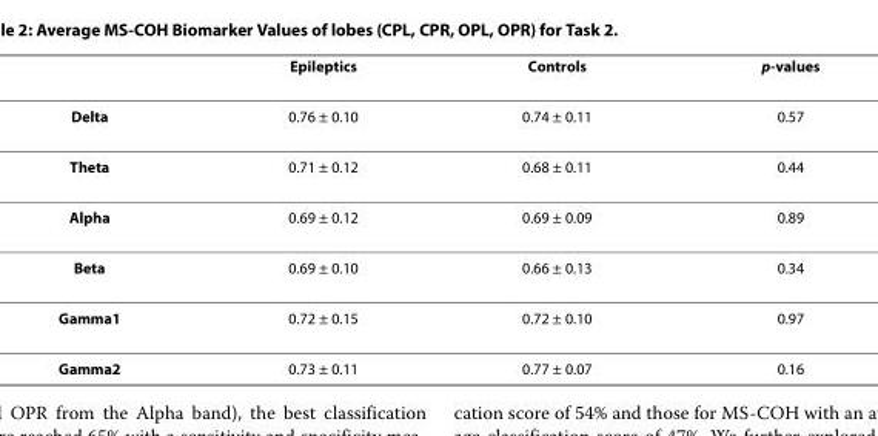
<table><thead><tr><td></td><td>Epileptics</td><td>Controls</td><td>p-values</td></tr></thead><tbody><tr><td>Delta</td><td>0.76 ± 0.10</td><td>0.74 ± 0.11</td><td>0.57</td></tr><tr><td>Theta</td><td>0.71 ± 0.12</td><td>0.68 ± 0.11</td><td>0.44</td></tr><tr><td>Alpha</td><td>0.69 ± 0.12</td><td>0.69 ± 0.09</td><td>0.89</td></tr><tr><td>Beta</td><td>0.69 ± 0.10</td><td>0.66 ± 0.13</td><td>0.34</td></tr><tr><td>Gamma1</td><td>0.72 ± 0.15</td><td>0.72 ± 0.10</td><td>0.97</td></tr><tr><td>Gamma2</td><td>0.73 ± 0.11</td><td>0.77 ± 0.07</td><td>0.16</td></tr></tbody></table>